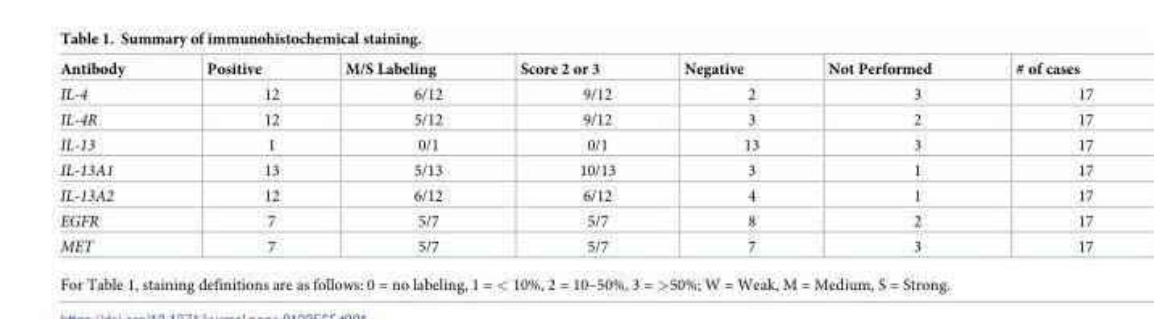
<table><thead><tr><td>Antibody</td><td>Positive</td><td>M/S Labeling</td><td>Score 2 or 3</td><td>Negative</td><td>Not Performed</td><td># of cases</td></tr></thead><tbody><tr><td>IL-4</td><td>12</td><td>6/12</td><td>9/12</td><td>2</td><td>3</td><td>17</td></tr><tr><td>IL-4R</td><td>12</td><td>5/12</td><td>9/12</td><td>3</td><td>2</td><td>17</td></tr><tr><td>IL-13</td><td>1</td><td>0/1</td><td>0/1</td><td>13</td><td>3</td><td>17</td></tr><tr><td>IL-13A1</td><td>13</td><td>5/13</td><td>10/13</td><td>3</td><td>1</td><td>17</td></tr><tr><td>IL-13A2</td><td>12</td><td>6/12</td><td>6/12</td><td>4</td><td>1</td><td>17</td></tr><tr><td>EGFR</td><td>7</td><td>5/7</td><td>5/7</td><td>8</td><td>2</td><td>17</td></tr><tr><td>MET</td><td>7</td><td>5/7</td><td>5/7</td><td>7</td><td>3</td><td>17</td></tr></tbody></table>